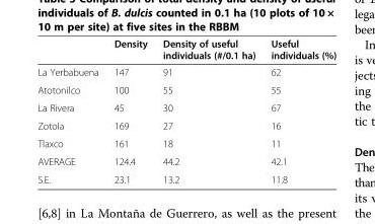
<table><thead><tr><td></td><td>Density</td><td>Density of useful individuals (#/0.1 ha)</td><td>Useful individuals (%)</td></tr></thead><tbody><tr><td>La Yerbabuena</td><td>147</td><td>91</td><td>62</td></tr><tr><td>Atotonilco</td><td>100</td><td>55</td><td>55</td></tr><tr><td>La Rivera</td><td>45</td><td>30</td><td>67</td></tr><tr><td>Zotola</td><td>169</td><td>27</td><td>16</td></tr><tr><td>Tlaxco</td><td>161</td><td>18</td><td>11</td></tr><tr><td>AVERAGE</td><td>124.4</td><td>44.2</td><td>42.1</td></tr><tr><td>S.E.</td><td>23.1</td><td>13.2</td><td>11.8</td></tr></tbody></table>